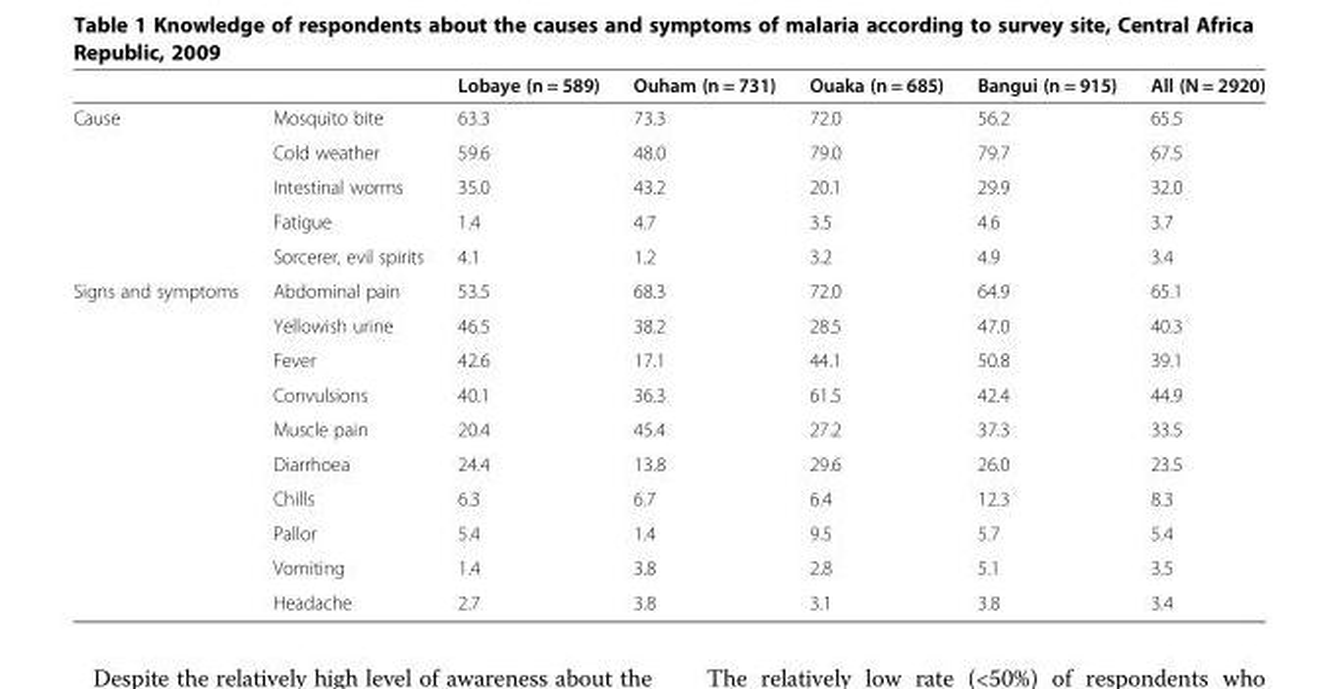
<table><thead><tr><td></td><td></td><td>Lobaye (n = 589)</td><td>Ouham (n = 731)</td><td>Ouaka (n = 685)</td><td>Bangui (n = 915)</td><td>All (N = 2920)</td></tr></thead><tbody><tr><td rowspan="5">Cause</td><td>Mosquito bite</td><td>63.3</td><td>73.3</td><td>72.0</td><td>56.2</td><td>65.5</td></tr><tr><td>Cold weather</td><td>59.6</td><td>48.0</td><td>79.0</td><td>79.7</td><td>67.5</td></tr><tr><td>Intestinal worms</td><td>35.0</td><td>43.2</td><td>20.1</td><td>29.9</td><td>32.0</td></tr><tr><td>Fatigue</td><td>1.4</td><td>4.7</td><td>3.5</td><td>4.6</td><td>3.7</td></tr><tr><td>Sorcerer, evil spirits</td><td>4.1</td><td>1.2</td><td>3.2</td><td>4.9</td><td>3.4</td></tr><tr><td rowspan="10">Signs and symptoms</td><td>Abdominal pain</td><td>53.5</td><td>68.3</td><td>72.0</td><td>64.9</td><td>65.1</td></tr><tr><td>Yellowish urine</td><td>46.5</td><td>38.2</td><td>28.5</td><td>47.0</td><td>40.3</td></tr><tr><td>Fever</td><td>42.6</td><td>17.1</td><td>44.1</td><td>50.8</td><td>39.1</td></tr><tr><td>Convulsions</td><td>40.1</td><td>36.3</td><td>61.5</td><td>42.4</td><td>44.9</td></tr><tr><td>Muscle pain</td><td>20.4</td><td>45.4</td><td>27.2</td><td>37.3</td><td>33.5</td></tr><tr><td>Diarrhoea</td><td>24.4</td><td>13.8</td><td>29.6</td><td>26.0</td><td>23.5</td></tr><tr><td>Chills</td><td>6.3</td><td>6.7</td><td>6.4</td><td>12.3</td><td>8.3</td></tr><tr><td>Pallor</td><td>5.4</td><td>1.4</td><td>9.5</td><td>5.7</td><td>5.4</td></tr><tr><td>Vomiting</td><td>1.4</td><td>3.8</td><td>2.8</td><td>5.1</td><td>3.5</td></tr><tr><td>Headache</td><td>2.7</td><td>3.8</td><td>3.1</td><td>3.8</td><td>3.4</td></tr></tbody></table>